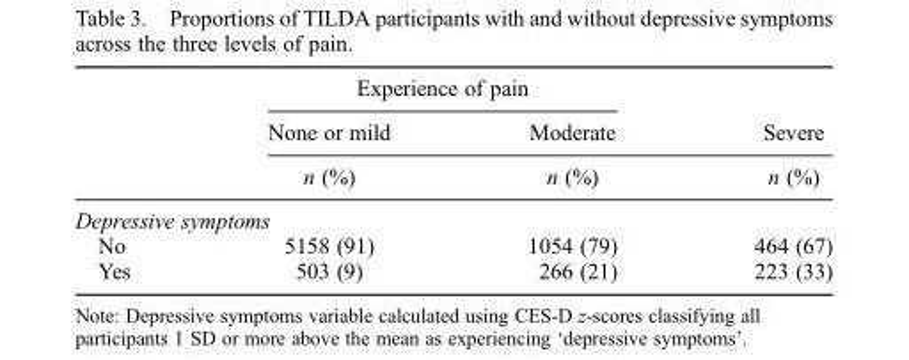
<table><thead><tr><td rowspan="3"></td><td colspan="2">Experience of pain</td><td rowspan="3">Severe n (%)</td></tr><tr><td rowspan="2">None or mild n (%)</td><td rowspan="2">Moderate n (%)</td></tr><tr></tr></thead><tbody><tr><td colspan="4">Depressive symptoms</td></tr><tr><td>No</td><td>5158 (91)</td><td>1054 (79)</td><td>464 (67)</td></tr><tr><td>Yes</td><td>503 (9)</td><td>266 (21)</td><td>223 (33)</td></tr></tbody></table>